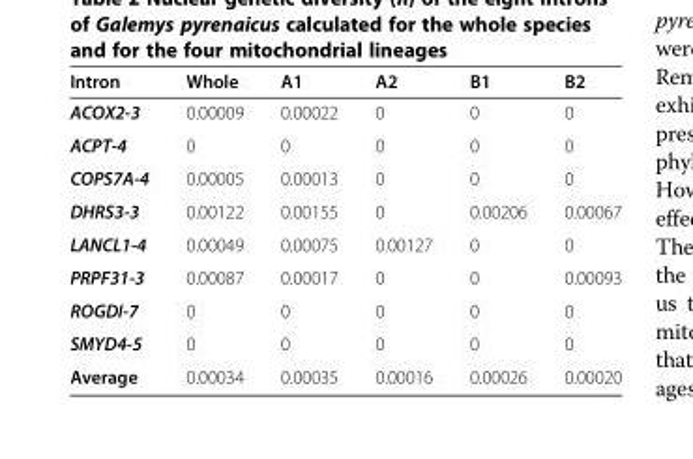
<table><thead><tr><td>Intron</td><td>Whole</td><td>A1</td><td>A2</td><td>B1</td><td>B2</td></tr></thead><tbody><tr><td>ACOX2-3</td><td>0.00009</td><td>0.00022</td><td>0</td><td>0</td><td>0</td></tr><tr><td>ACPT-4</td><td>0</td><td>0</td><td>0</td><td>0</td><td>0</td></tr><tr><td>COPS7A-4</td><td>0.00005</td><td>0.00013</td><td>0</td><td>0</td><td>0</td></tr><tr><td>DHRS3-3</td><td>0.00122</td><td>0.00155</td><td>0</td><td>0.00206</td><td>0.00067</td></tr><tr><td>LANCL1-4</td><td>0.00049</td><td>0.00075</td><td>0.00127</td><td>0</td><td>0</td></tr><tr><td>PRPF31-3</td><td>0.00087</td><td>0.00017</td><td>0</td><td>0</td><td>0.00093</td></tr><tr><td>ROGDI-7</td><td>0</td><td>0</td><td>0</td><td>0</td><td>0</td></tr><tr><td>SMYD4-5</td><td>0</td><td>0</td><td>0</td><td>0</td><td>0</td></tr><tr><td>Average</td><td>0.00034</td><td>0.00035</td><td>0.00016</td><td>0.00026</td><td>0.00020</td></tr></tbody></table>